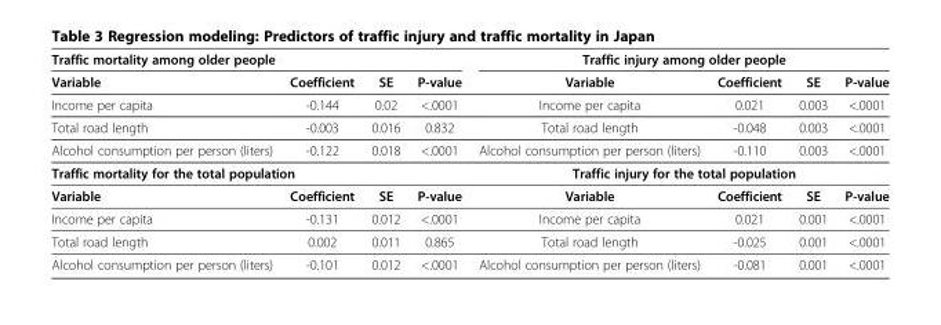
<table><thead><tr><td colspan="4">Traffic mortality among older people</td><td colspan="4">Traffic injury among older people</td></tr><tr><td>Variable</td><td>Coefficient</td><td>SE</td><td>P-value</td><td>Variable</td><td>Coefficient</td><td>SE</td><td>P-value</td></tr></thead><tbody><tr><td>Income per capita</td><td>-0.144</td><td>0.02</td><td>&lt;.0001</td><td>Income per capita</td><td>0.021</td><td>0.003</td><td>&lt;.0001</td></tr><tr><td>Total road length</td><td>-0.003</td><td>0.016</td><td>0.832</td><td>Total road length</td><td>-0.048</td><td>0.003</td><td>&lt;.0001</td></tr><tr><td>Alcohol consumption per person (liters)</td><td>-0.122</td><td>0.018</td><td>&lt;.0001</td><td>Alcohol consumption per person (liters)</td><td>-0.110</td><td>0.003</td><td>&lt;.0001</td></tr><tr><td colspan="4">Traffic mortality for the total population</td><td colspan="4">Traffic injury for the total population</td></tr><tr><td>Variable</td><td>Coefficient</td><td>SE</td><td>P-value</td><td>Variable</td><td>Coefficient</td><td>SE</td><td>P-value</td></tr><tr><td>Income per capita</td><td>-0.131</td><td>0.012</td><td>&lt;.0001</td><td>Income per capita</td><td>0.021</td><td>0.001</td><td>&lt;.0001</td></tr><tr><td>Total road length</td><td>0.002</td><td>0.011</td><td>0.865</td><td>Total road length</td><td>-0.025</td><td>0.001</td><td>&lt;.0001</td></tr><tr><td>Alcohol consumption per person (liters)</td><td>-0.101</td><td>0.012</td><td>&lt;.0001</td><td>Alcohol consumption per person (liters)</td><td>-0.081</td><td>0.001</td><td>&lt;.0001</td></tr></tbody></table>